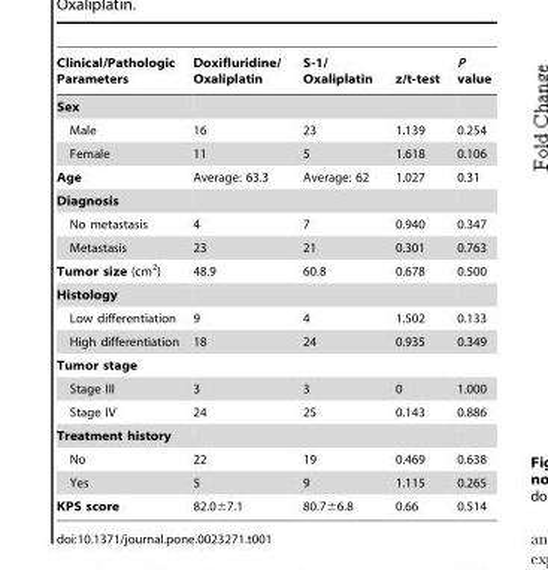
<table><thead><tr><td>Clinical/Pathologic Parameters</td><td>Doxifluridine/ Oxaliplatin</td><td>S-1/ Oxaliplatin</td><td>z/t-test</td><td>P value</td></tr></thead><tbody><tr><td colspan="5">Sex</td></tr><tr><td>Male</td><td>16</td><td>23</td><td>1.139</td><td>0.254</td></tr><tr><td>Female</td><td>11</td><td>5</td><td>1.618</td><td>0.106</td></tr><tr><td>Age</td><td>Average: 63.3</td><td>Average: 62</td><td>1.027</td><td>0.31</td></tr><tr><td colspan="5">Diagnosis</td></tr><tr><td>No metastasis</td><td>4</td><td>7</td><td>0.940</td><td>0.347</td></tr><tr><td>Metastasis</td><td>23</td><td>21</td><td>0.301</td><td>0.763</td></tr><tr><td>Tumor size (cm<sup>2</sup>)</td><td>48.9</td><td>60.8</td><td>0.678</td><td>0.500</td></tr><tr><td colspan="5">Histology</td></tr><tr><td>Low differentiation</td><td>9</td><td>4</td><td>1.502</td><td>0.133</td></tr><tr><td>High differentiation</td><td>18</td><td>24</td><td>0.935</td><td>0.349</td></tr><tr><td colspan="5">Tumor stage</td></tr><tr><td>Stage III</td><td>3</td><td>3</td><td>0</td><td>1.000</td></tr><tr><td>Stage IV</td><td>24</td><td>25</td><td>0.143</td><td>0.886</td></tr><tr><td colspan="5">Treatment history</td></tr><tr><td>No</td><td>22</td><td>19</td><td>0.469</td><td>0.638</td></tr><tr><td>Yes</td><td>5</td><td>9</td><td>1.115</td><td>0.265</td></tr><tr><td>KPS score</td><td>82.0±7.1</td><td>80.7±6.8</td><td>0.66</td><td>0.514</td></tr></tbody></table>